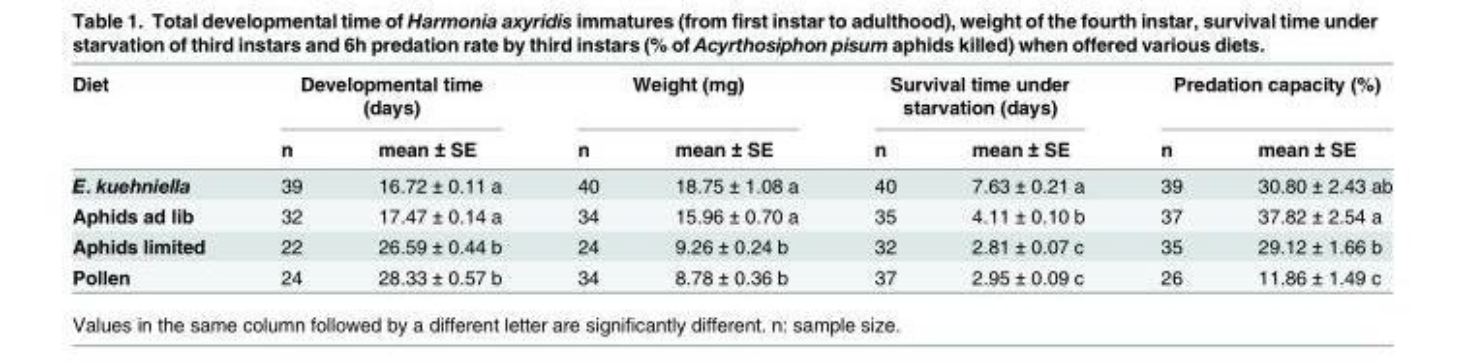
<table><thead><tr><td rowspan="2">Diet</td><td colspan="2">Developmental time (days)</td><td colspan="2">Weight (mg)</td><td colspan="2">Survival time under starvation (days)</td><td colspan="2">Predation capacity (%)</td></tr><tr><td>n</td><td>mean ± SE</td><td>n</td><td>mean ± SE</td><td>n</td><td>mean ± SE</td><td>n</td><td>mean ± SE</td></tr></thead><tbody><tr><td>E. kuehniella</td><td>39</td><td>16.72 ± 0.11 a</td><td>40</td><td>18.75 ± 1.08 a</td><td>40</td><td>7.63 ± 0.21 a</td><td>39</td><td>30.80 ± 2.43 ab</td></tr><tr><td>Aphids ad lib</td><td>32</td><td>17.47 ± 0.14 a</td><td>34</td><td>15.96 ± 0.70 a</td><td>35</td><td>4.11 ± 0.10 b</td><td>37</td><td>37.82 ± 2.54 a</td></tr><tr><td>Aphids limited</td><td>22</td><td>26.59 ± 0.44 b</td><td>24</td><td>9.26 ± 0.24 b</td><td>32</td><td>2.81 ± 0.07 c</td><td>35</td><td>29.12 ± 1.66 b</td></tr><tr><td>Pollen</td><td>24</td><td>28.33 ± 0.57 b</td><td>34</td><td>8.78 ± 0.36 b</td><td>37</td><td>2.95 ± 0.09 c</td><td>26</td><td>11.86 ± 1.49 c</td></tr></tbody></table>